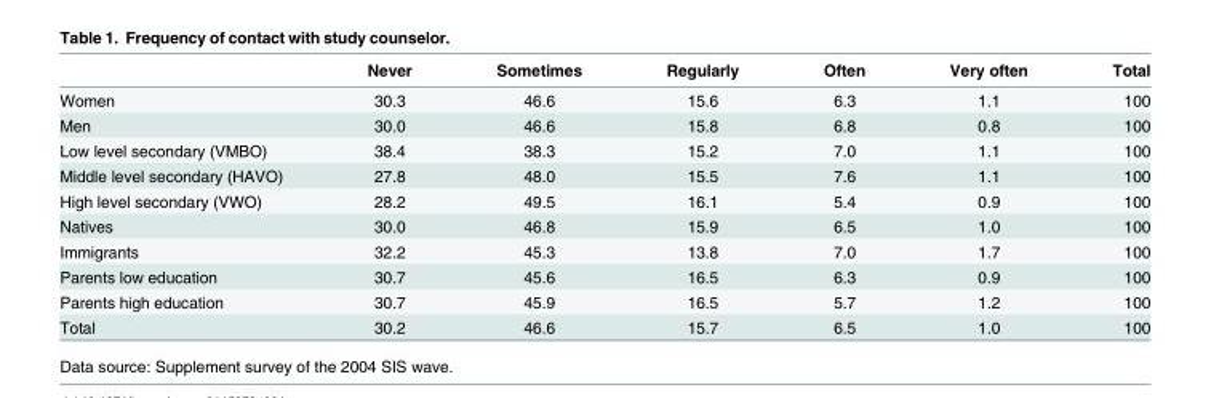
<table><thead><tr><td></td><td>Never</td><td>Sometimes</td><td>Regularly</td><td>Often</td><td>Very often</td><td>Total</td></tr></thead><tbody><tr><td>Women</td><td>30.3</td><td>46.6</td><td>15.6</td><td>6.3</td><td>1.1</td><td>100</td></tr><tr><td>Men</td><td>30.0</td><td>46.6</td><td>15.8</td><td>6.8</td><td>0.8</td><td>100</td></tr><tr><td>Low level secondary (VMBO)</td><td>38.4</td><td>38.3</td><td>15.2</td><td>7.0</td><td>1.1</td><td>100</td></tr><tr><td>Middle level secondary (HAVO)</td><td>27.8</td><td>48.0</td><td>15.5</td><td>7.6</td><td>1.1</td><td>100</td></tr><tr><td>High level secondary (VWO)</td><td>28.2</td><td>49.5</td><td>16.1</td><td>5.4</td><td>0.9</td><td>100</td></tr><tr><td>Natives</td><td>30.0</td><td>46.8</td><td>15.9</td><td>6.5</td><td>1.0</td><td>100</td></tr><tr><td>Immigrants</td><td>32.2</td><td>45.3</td><td>13.8</td><td>7.0</td><td>1.7</td><td>100</td></tr><tr><td>Parents low education</td><td>30.7</td><td>45.6</td><td>16.5</td><td>6.3</td><td>0.9</td><td>100</td></tr><tr><td>Parents high education</td><td>30.7</td><td>45.9</td><td>16.5</td><td>5.7</td><td>1.2</td><td>100</td></tr><tr><td>Total</td><td>30.2</td><td>46.6</td><td>15.7</td><td>6.5</td><td>1.0</td><td>100</td></tr></tbody></table>